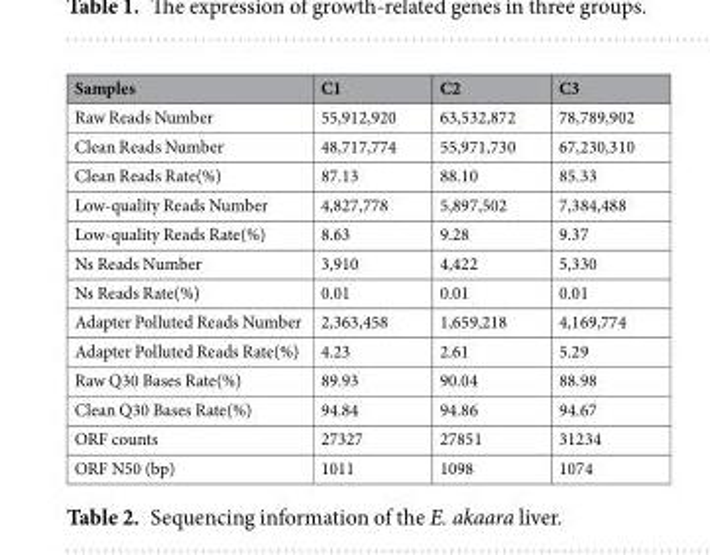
<table><thead><tr><td>Samples</td><td>C1</td><td>C2</td><td>C3</td></tr></thead><tbody><tr><td>Raw Reads Number</td><td>55,912,920</td><td>63,532,872</td><td>78,789,902</td></tr><tr><td>Clean Reads Number</td><td>48,717,774</td><td>55,971,730</td><td>67,230,310</td></tr><tr><td>Clean Reads Rate(%)</td><td>87.13</td><td>88.10</td><td>85.33</td></tr><tr><td>Low-quality Reads Number</td><td>4,827,778</td><td>5,897,502</td><td>7,384,488</td></tr><tr><td>Low-quality Reads Rate(%)</td><td>8.63</td><td>9.28</td><td>9.37</td></tr><tr><td>Ns Reads Number</td><td>3,910</td><td>4,422</td><td>5,330</td></tr><tr><td>Ns Reads Rate(%)</td><td>0.01</td><td>0.01</td><td>0.01</td></tr><tr><td>Adapter Polluted Reads Number</td><td>2,363,458</td><td>1,659,218</td><td>4,169,774</td></tr><tr><td>Adapter Polluted Reads Rate(%)</td><td>4.23</td><td>2.61</td><td>5.29</td></tr><tr><td>Raw Q30 Bases Rate(%)</td><td>89.93</td><td>90.04</td><td>88.98</td></tr><tr><td>Clean Q30 Bases Rate(%)</td><td>94.84</td><td>94.86</td><td>94.67</td></tr><tr><td>ORF counts</td><td>27327</td><td>27851</td><td>31234</td></tr><tr><td>ORF N50 (bp)</td><td>1011</td><td>1098</td><td>1074</td></tr></tbody></table>